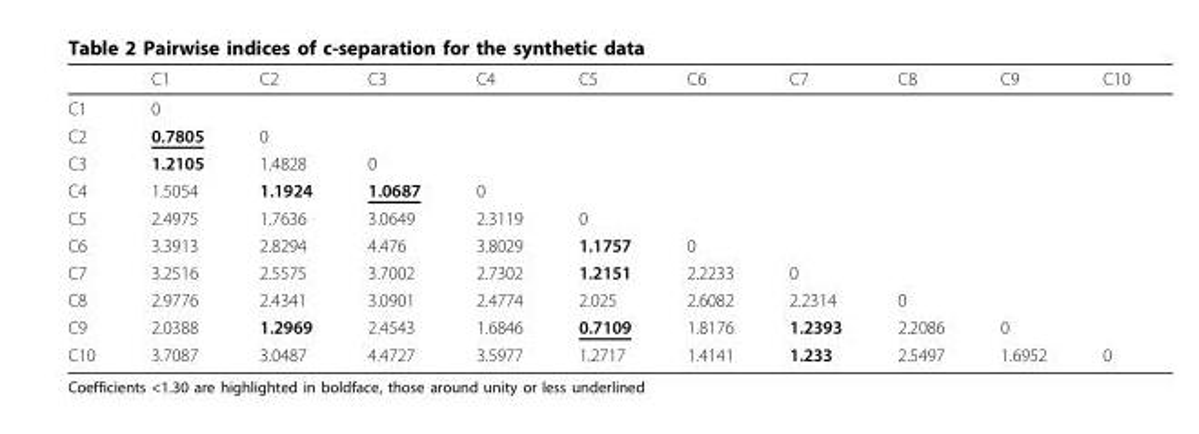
<table><thead><tr><td></td><td>C1</td><td>C2</td><td>C3</td><td>C4</td><td>C5</td><td>C6</td><td>C7</td><td>C8</td><td>C9</td><td>C10</td></tr></thead><tbody><tr><td>C1</td><td>0</td><td></td><td></td><td></td><td></td><td></td><td></td><td></td><td></td><td></td></tr><tr><td>C2</td><td>0.7805</td><td>0</td><td></td><td></td><td></td><td></td><td></td><td></td><td></td><td></td></tr><tr><td>C3</td><td>1.2105</td><td>1.4828</td><td>0</td><td></td><td></td><td></td><td></td><td></td><td></td><td></td></tr><tr><td>C4</td><td>1.5054</td><td>1.1924</td><td>1.0687</td><td>0</td><td></td><td></td><td></td><td></td><td></td><td></td></tr><tr><td>C5</td><td>2.4975</td><td>1.7636</td><td>3.0649</td><td>2.3119</td><td>0</td><td></td><td></td><td></td><td></td><td></td></tr><tr><td>C6</td><td>3.3913</td><td>2.8294</td><td>4.476</td><td>3.8029</td><td>1.1757</td><td>0</td><td></td><td></td><td></td><td></td></tr><tr><td>C7</td><td>3.2516</td><td>2.5575</td><td>3.7002</td><td>2.7302</td><td>1.2151</td><td>2.2233</td><td>0</td><td></td><td></td><td></td></tr><tr><td>C8</td><td>2.9776</td><td>2.4341</td><td>3.0901</td><td>2.4774</td><td>2.025</td><td>2.6082</td><td>2.2314</td><td>0</td><td></td><td></td></tr><tr><td>C9</td><td>2.0388</td><td>1.2969</td><td>2.4543</td><td>1.6846</td><td>0.7109</td><td>1.8176</td><td>1.2393</td><td>2.2086</td><td>0</td><td></td></tr><tr><td>C10</td><td>3.7087</td><td>3.0487</td><td>4.4727</td><td>3.5977</td><td>1.2717</td><td>1.4141</td><td>1.233</td><td>2.5497</td><td>1.6952</td><td>0</td></tr></tbody></table>